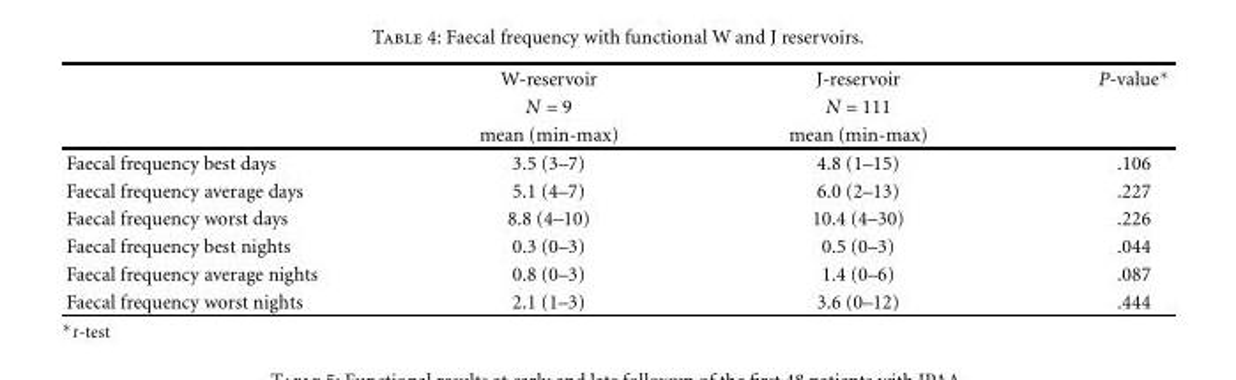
<table><thead><tr><td rowspan="3"></td><td rowspan="3">W-reservoir N = 9 mean (min-max)</td><td rowspan="3">J-reservoir N = 111 mean (min-max)</td><td rowspan="3">P-value∗</td></tr><tr></tr><tr></tr></thead><tbody><tr><td>Faecal frequency best days</td><td>3.5 (3–7)</td><td>4.8 (1–15)</td><td>.106</td></tr><tr><td>Faecal frequency average days</td><td>5.1 (4–7)</td><td>6.0 (2–13)</td><td>.227</td></tr><tr><td>Faecal frequency worst days</td><td>8.8 (4–10)</td><td>10.4 (4–30)</td><td>.226</td></tr><tr><td>Faecal frequency best nights</td><td>0.3 (0–3)</td><td>0.5 (0–3)</td><td>.044</td></tr><tr><td>Faecal frequency average nights</td><td>0.8 (0–3)</td><td>1.4 (0–6)</td><td>.087</td></tr><tr><td>Faecal frequency worst nights</td><td>2.1 (1–3)</td><td>3.6 (0–12)</td><td>.444</td></tr></tbody></table>